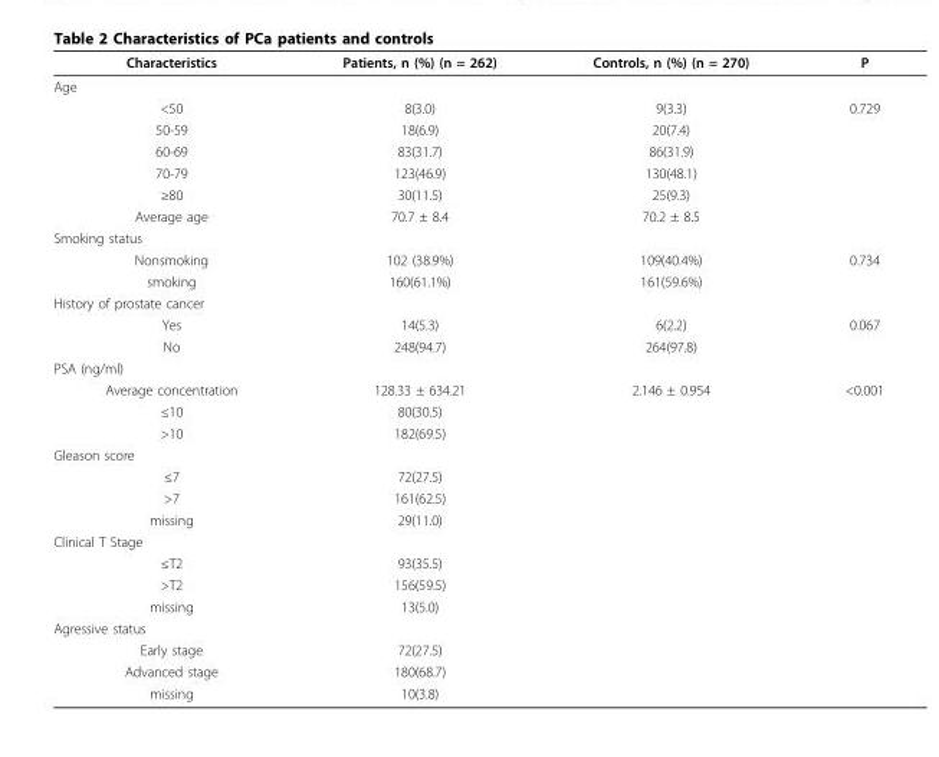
<table><thead><tr><td>Characteristics</td><td>Patients, n (%) (n = 262)</td><td>Controls, n (%) (n = 270)</td><td>P</td></tr></thead><tbody><tr><td colspan="4">Age</td></tr><tr><td>&lt;50</td><td>8(3.0)</td><td>9(3.3)</td><td>0.729</td></tr><tr><td>50-59</td><td>18(6.9)</td><td>20(7.4)</td><td></td></tr><tr><td>60-69</td><td>83(31.7)</td><td>86(31.9)</td><td></td></tr><tr><td>70-79</td><td>123(46.9)</td><td>130(48.1)</td><td></td></tr><tr><td>≥80</td><td>30(11.5)</td><td>25(9.3)</td><td></td></tr><tr><td>Average age</td><td>70.7 ± 8.4</td><td>70.2 ± 8.5</td><td></td></tr><tr><td colspan="4">Smoking status</td></tr><tr><td>Nonsmoking</td><td>102 (38.9%)</td><td>109(40.4%)</td><td>0.734</td></tr><tr><td>smoking</td><td>160(61.1%)</td><td>161(59.6%)</td><td></td></tr><tr><td colspan="4">History of prostate cancer</td></tr><tr><td>Yes</td><td>14(5.3)</td><td>6(2.2)</td><td>0.067</td></tr><tr><td>No</td><td>248(94.7)</td><td>264(97.8)</td><td></td></tr><tr><td colspan="4">PSA (ng/ml)</td></tr><tr><td>Average concentration</td><td>128.33 ± 634.21</td><td>2.146 ± 0.954</td><td>&lt;0.001</td></tr><tr><td>≤10</td><td>80(30.5)</td><td></td><td></td></tr><tr><td>&gt;10</td><td>182(69.5)</td><td></td><td></td></tr><tr><td colspan="4">Gleason score</td></tr><tr><td>≤7</td><td>72(27.5)</td><td></td><td></td></tr><tr><td>&gt;7</td><td>161(62.5)</td><td></td><td></td></tr><tr><td>missing</td><td>29(11.0)</td><td></td><td></td></tr><tr><td colspan="4">Clinical T Stage</td></tr><tr><td>≤T2</td><td>93(35.5)</td><td></td><td></td></tr><tr><td>&gt;T2</td><td>156(59.5)</td><td></td><td></td></tr><tr><td>missing</td><td>13(5.0)</td><td></td><td></td></tr><tr><td colspan="4">Agressive status</td></tr><tr><td>Early stage</td><td>72(27.5)</td><td></td><td></td></tr><tr><td>Advanced stage</td><td>180(68.7)</td><td></td><td></td></tr><tr><td>missing</td><td>10(3.8)</td><td></td><td></td></tr></tbody></table>